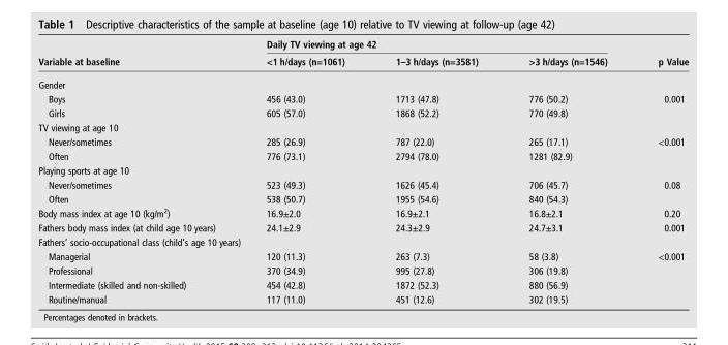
<table><thead><tr><td rowspan="2">Variable at baseline</td><td colspan="3">Daily TV viewing at age 42</td><td rowspan="2">p Value</td></tr><tr><td>&lt;1 h/days (n=1061)</td><td>1–3 h/days (n=3581)</td><td>&gt;3 h/days (n=1546)</td></tr></thead><tbody><tr><td colspan="5">Gender</td></tr><tr><td>Boys</td><td>456 (43.0)</td><td>1713 (47.8)</td><td>776 (50.2)</td><td>0.001</td></tr><tr><td>Girls</td><td>605 (57.0)</td><td>1868 (52.2)</td><td>770 (49.8)</td><td></td></tr><tr><td colspan="5">TV viewing at age 10</td></tr><tr><td>Never/sometimes</td><td>285 (26.9)</td><td>787 (22.0)</td><td>265 (17.1)</td><td>&lt;0.001</td></tr><tr><td>Often</td><td>776 (73.1)</td><td>2794 (78.0)</td><td>1281 (82.9)</td><td></td></tr><tr><td colspan="5">Playing sports at age 10</td></tr><tr><td>Never/sometimes</td><td>523 (49.3)</td><td>1626 (45.4)</td><td>706 (45.7)</td><td>0.08</td></tr><tr><td>Often</td><td>538 (50.7)</td><td>1955 (54.6)</td><td>840 (54.3)</td><td></td></tr><tr><td>Body mass index at age 10 (kg/m<sup>2</sup>)</td><td>16.9±2.0</td><td>16.9±2.1</td><td>16.8±2.1</td><td>0.20</td></tr><tr><td>Fathers body mass index (at child age 10 years)</td><td>24.1±2.9</td><td>24.3±2.9</td><td>24.7±3.1</td><td>0.001</td></tr><tr><td colspan="5">Fathers’ socio-occupational class (child’s age 10 years)</td></tr><tr><td>Managerial</td><td>120 (11.3)</td><td>263 (7.3)</td><td>58 (3.8)</td><td>&lt;0.001</td></tr><tr><td>Professional</td><td>370 (34.9)</td><td>995 (27.8)</td><td>306 (19.8)</td><td></td></tr><tr><td>Intermediate (skilled and non-skilled)</td><td>454 (42.8)</td><td>1872 (52.3)</td><td>880 (56.9)</td><td></td></tr><tr><td>Routine/manual</td><td>117 (11.0)</td><td>451 (12.6)</td><td>302 (19.5)</td><td></td></tr></tbody></table>